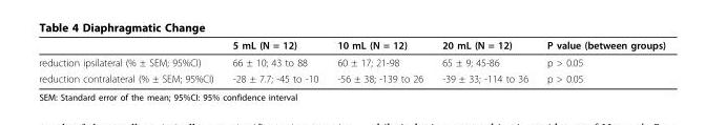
<table><thead><tr><td></td><td>5 mL (N = 12)</td><td>10 mL (N = 12)</td><td>20 mL (N = 12)</td><td>P value (between groups)</td></tr></thead><tbody><tr><td>reduction ipsilateral (% ± SEM; 95%CI)</td><td>66 ± 10; 43 to 88</td><td>60 ± 17; 21-98</td><td>65 ± 9; 45-86</td><td>p &gt; 0.05</td></tr><tr><td>reduction contralateral (% ± SEM; 95%CI)</td><td>-28 ± 7.7; -45 to -10</td><td>-56 ± 38; -139 to 26</td><td>-39 ± 33; -114 to 36</td><td>p &gt; 0.05</td></tr></tbody></table>